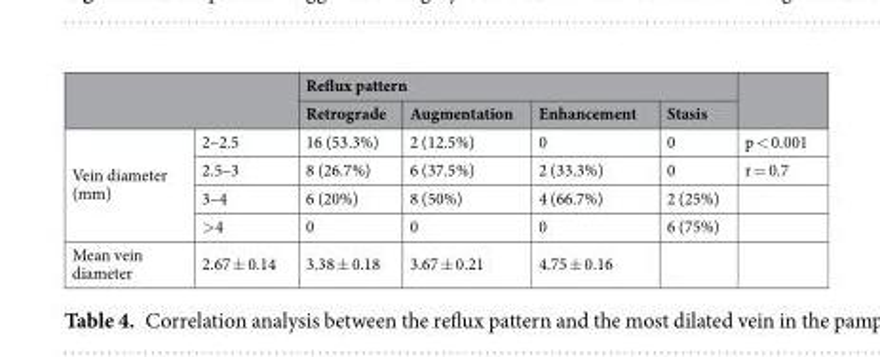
<table><thead><tr><td rowspan="2"></td><td rowspan="2"></td><td colspan="4">Reflux pattern</td><td rowspan="2"></td></tr><tr><td>Retrograde</td><td>Augmentation</td><td>Enhancement</td><td>Stasis</td></tr></thead><tbody><tr><td rowspan="4">Vein diameter (mm)</td><td>2–2.5</td><td>16 (53.3%)</td><td>2 (12.5%)</td><td>0</td><td>0</td><td>p &lt; 0.001</td></tr><tr><td>2.5–3</td><td>8 (26.7%)</td><td>6 (37.5%)</td><td>2 (33.3%)</td><td>0</td><td>r = 0.7</td></tr><tr><td>3–4</td><td>6 (20%)</td><td>8 (50%)</td><td>4 (66.7%)</td><td>2 (25%)</td><td></td></tr><tr><td>&gt;4</td><td>0</td><td>0</td><td>0</td><td>6 (75%)</td><td></td></tr><tr><td>Mean vein diameter</td><td>2.67 ± 0.14</td><td>3.38 ± 0.18</td><td>3.67 ± 0.21</td><td>4.75 ± 0.16</td><td></td><td></td></tr></tbody></table>